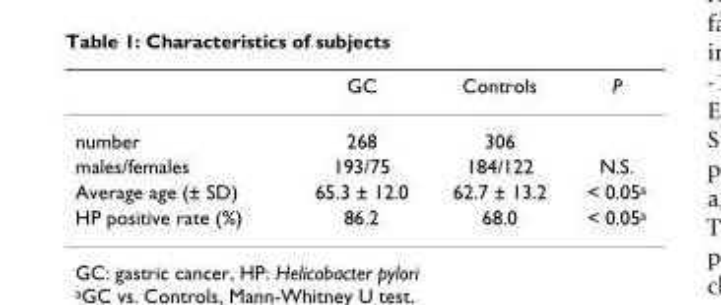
<table><thead><tr><td></td><td>GC</td><td>Controls</td><td>P</td></tr></thead><tbody><tr><td>number</td><td>268</td><td>306</td><td></td></tr><tr><td>males/females</td><td>193/75</td><td>184/122</td><td>N.S.</td></tr><tr><td>Average age (± SD)</td><td>65.3 ± 12.0</td><td>62.7 ± 13.2</td><td>&lt; 0.05<sup>a</sup></td></tr><tr><td>HP positive rate (%)</td><td>86.2</td><td>68.0</td><td>&lt; 0.05<sup>a</sup></td></tr></tbody></table>